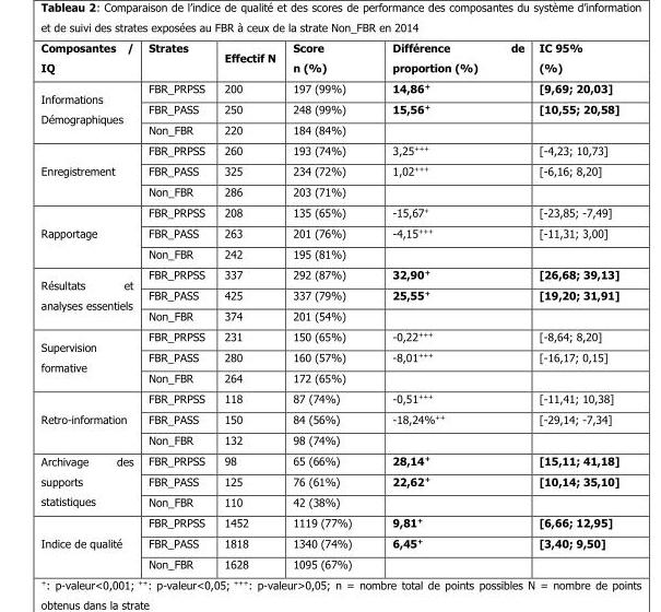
<table><thead><tr><td>Composantes / IQ</td><td>Strates</td><td>Effectif N</td><td>Score n (%)</td><td>Différence de proportion (%)</td><td>IC 95% (%)</td></tr></thead><tbody><tr><td rowspan="3">Informations Démographiques</td><td>FBR_PRPSS</td><td>200</td><td>197 (99%)</td><td>14,86<sup>+</sup></td><td>[9,69; 20,03]</td></tr><tr><td>FBR_PASS</td><td>250</td><td>248 (99%)</td><td>15,56<sup>+</sup></td><td>[10,55; 20,58]</td></tr><tr><td>Non_FBR</td><td>220</td><td>184 (84%)</td><td></td><td></td></tr><tr><td rowspan="3">Enregistrement</td><td>FBR_PRPSS</td><td>260</td><td>193 (74%)</td><td>3,25<sup>+++</sup></td><td>[-4,23; 10,73]</td></tr><tr><td>FBR_PASS</td><td>325</td><td>234 (72%)</td><td>1,02<sup>+++</sup></td><td>[-6,16; 8,20]</td></tr><tr><td>Non_FBR</td><td>286</td><td>203 (71%)</td><td></td><td></td></tr><tr><td rowspan="3">Rapportage</td><td>FBR_PRPSS</td><td>208</td><td>135 (65%)</td><td>-15,67<sup>+</sup></td><td>[-23,85; -7,49]</td></tr><tr><td>FBR_PASS</td><td>263</td><td>201 (76%)</td><td>-4,15<sup>+++</sup></td><td>[-11,31; 3,00]</td></tr><tr><td>Non_FBR</td><td>242</td><td>195 (81%)</td><td></td><td></td></tr><tr><td rowspan="3">Résultats et analyses essentiels</td><td>FBR_PRPSS</td><td>337</td><td>292 (87%)</td><td>32,90<sup>+</sup></td><td>[26,68; 39,13]</td></tr><tr><td>FBR_PASS</td><td>425</td><td>337 (79%)</td><td>25,55<sup>+</sup></td><td>[19,20; 31,91]</td></tr><tr><td>Non_FBR</td><td>374</td><td>201 (54%)</td><td></td><td></td></tr><tr><td rowspan="3">Supervision formative</td><td>FBR_PRPSS</td><td>231</td><td>150 (65%)</td><td>-0,22<sup>+++</sup></td><td>[-8,64; 8,20]</td></tr><tr><td>FBR_PASS</td><td>280</td><td>160 (57%)</td><td>-8,01<sup>+++</sup></td><td>[-16,17; 0,15]</td></tr><tr><td>Non_FBR</td><td>264</td><td>172 (65%)</td><td></td><td></td></tr><tr><td rowspan="3">Retro-information</td><td>FBR_PRPSS</td><td>118</td><td>87 (74%)</td><td>-0,51<sup>+++</sup></td><td>[-11,41; 10,38]</td></tr><tr><td>FBR_PASS</td><td>150</td><td>84 (56%)</td><td>-18,24%<sup>++</sup></td><td>[-29,14; -7,34]</td></tr><tr><td>Non_FBR</td><td>132</td><td>98 (74%)</td><td></td><td></td></tr><tr><td rowspan="3">Archivage des supports statistiques</td><td>FBR_PRPSS</td><td>98</td><td>65 (66%)</td><td>28,14<sup>+</sup></td><td>[15,11; 41,18]</td></tr><tr><td>FBR_PASS</td><td>125</td><td>76 (61%)</td><td>22,62<sup>+</sup></td><td>[10,14; 35,10]</td></tr><tr><td>Non_FBR</td><td>110</td><td>42 (38%)</td><td></td><td></td></tr><tr><td rowspan="3">Indice de qualité</td><td>FBR_PRPSS</td><td>1452</td><td>1119 (77%)</td><td>9,81<sup>+</sup></td><td>[6,66; 12,95]</td></tr><tr><td>FBR_PASS</td><td>1818</td><td>1340 (74%)</td><td>6,45<sup>+</sup></td><td>[3,40; 9,50]</td></tr><tr><td>Non_FBR</td><td>1628</td><td>1095 (67%)</td><td></td><td></td></tr></tbody></table>